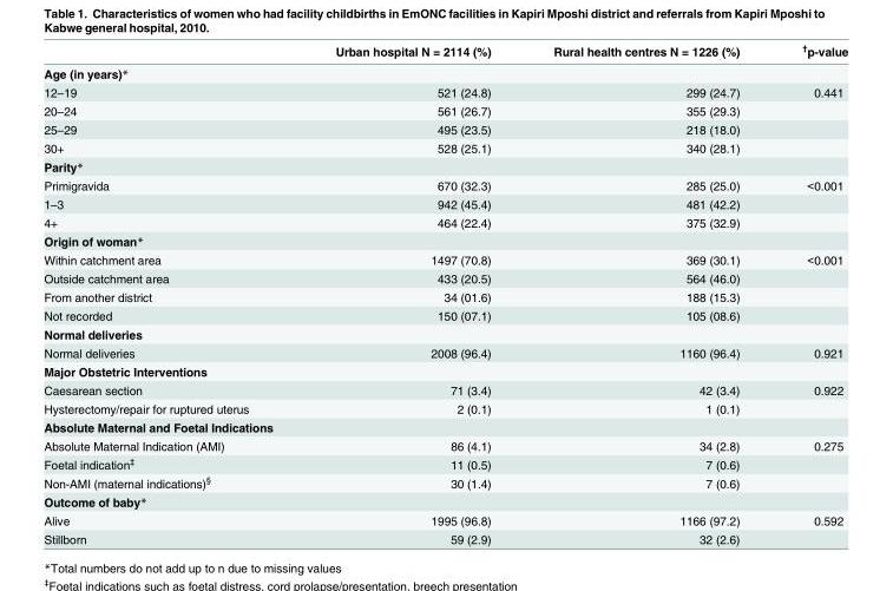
<table><thead><tr><td></td><td>Urban hospital N = 2114 (%)</td><td>Rural health centres N = 1226 (%)</td><td><sup>†</sup>p-value</td></tr></thead><tbody><tr><td colspan="4">Age (in years)*</td></tr><tr><td>12–19</td><td>521 (24.8)</td><td>299 (24.7)</td><td>0.441</td></tr><tr><td>20–24</td><td>561 (26.7)</td><td>355 (29.3)</td><td></td></tr><tr><td>25–29</td><td>495 (23.5)</td><td>218 (18.0)</td><td></td></tr><tr><td>30+</td><td>528 (25.1)</td><td>340 (28.1)</td><td></td></tr><tr><td colspan="4">Parity*</td></tr><tr><td>Primigravida</td><td>670 (32.3)</td><td>285 (25.0)</td><td>&lt;0.001</td></tr><tr><td>1–3</td><td>942 (45.4)</td><td>481 (42.2)</td><td></td></tr><tr><td>4+</td><td>464 (22.4)</td><td>375 (32.9)</td><td></td></tr><tr><td colspan="4">Origin of woman*</td></tr><tr><td>Within catchment area</td><td>1497 (70.8)</td><td>369 (30.1)</td><td>&lt;0.001</td></tr><tr><td>Outside catchment area</td><td>433 (20.5)</td><td>564 (46.0)</td><td></td></tr><tr><td>From another district</td><td>34 (01.6)</td><td>188 (15.3)</td><td></td></tr><tr><td>Not recorded</td><td>150 (07.1)</td><td>105 (08.6)</td><td></td></tr><tr><td colspan="4">Normal deliveries</td></tr><tr><td>Normal deliveries</td><td>2008 (96.4)</td><td>1160 (96.4)</td><td>0.921</td></tr><tr><td colspan="4">Major Obstetric Interventions</td></tr><tr><td>Caesarean section</td><td>71 (3.4)</td><td>42 (3.4)</td><td>0.922</td></tr><tr><td>Hysterectomy/repair for ruptured uterus</td><td>2 (0.1)</td><td>1 (0.1)</td><td></td></tr><tr><td colspan="4">Absolute Maternal and Foetal Indications</td></tr><tr><td>Absolute Maternal Indication (AMI)</td><td>86 (4.1)</td><td>34 (2.8)</td><td>0.275</td></tr><tr><td>Foetal indication<sup>‡</sup></td><td>11 (0.5)</td><td>7 (0.6)</td><td></td></tr><tr><td>Non-AMI (maternal indications)<sup>§</sup></td><td>30 (1.4)</td><td>7 (0.6)</td><td></td></tr><tr><td colspan="4">Outcome of baby*</td></tr><tr><td>Alive</td><td>1995 (96.8)</td><td>1166 (97.2)</td><td>0.592</td></tr><tr><td>Stillborn</td><td>59 (2.9)</td><td>32 (2.6)</td><td></td></tr></tbody></table>